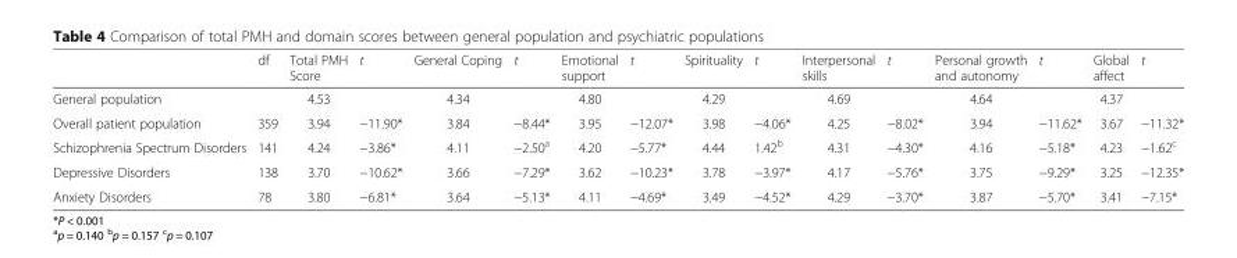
<table><thead><tr><td></td><td>df</td><td>Total PMH Score</td><td>t</td><td>General Coping</td><td>t</td><td>Emotional support</td><td>t</td><td>Spirituality</td><td>t</td><td>Interpersonal skills</td><td>t</td><td>Personal growth and autonomy</td><td>t</td><td>Global affect</td><td>t</td></tr></thead><tbody><tr><td>General population</td><td></td><td>4.53</td><td></td><td>4.34</td><td></td><td>4.80</td><td></td><td>4.29</td><td></td><td>4.69</td><td></td><td>4.64</td><td></td><td>4.37</td><td></td></tr><tr><td>Overall patient population</td><td>359</td><td>3.94</td><td>−11.90*</td><td>3.84</td><td>−8.44*</td><td>3.95</td><td>−12.07*</td><td>3.98</td><td>−4.06*</td><td>4.25</td><td>−8.02*</td><td>3.94</td><td>−11.62*</td><td>3.67</td><td>−11.32*</td></tr><tr><td>Schizophrenia Spectrum Disorders</td><td>141</td><td>4.24</td><td>−3.86*</td><td>4.11</td><td>−2.50<sup>a</sup></td><td>4.20</td><td>−5.77*</td><td>4.44</td><td>1.42<sup>b</sup></td><td>4.31</td><td>−4.30*</td><td>4.16</td><td>−5.18*</td><td>4.23</td><td>−1.62<sup>c</sup></td></tr><tr><td>Depressive Disorders</td><td>138</td><td>3.70</td><td>−10.62*</td><td>3.66</td><td>−7.29*</td><td>3.62</td><td>−10.23*</td><td>3.78</td><td>−3.97*</td><td>4.17</td><td>−5.76*</td><td>3.75</td><td>−9.29*</td><td>3.25</td><td>−12.35*</td></tr><tr><td>Anxiety Disorders</td><td>78</td><td>3.80</td><td>−6.81*</td><td>3.64</td><td>−5.13*</td><td>4.11</td><td>−4.69*</td><td>3.49</td><td>−4.52*</td><td>4.29</td><td>−3.70*</td><td>3.87</td><td>−5.70*</td><td>3.41</td><td>−7.15*</td></tr></tbody></table>